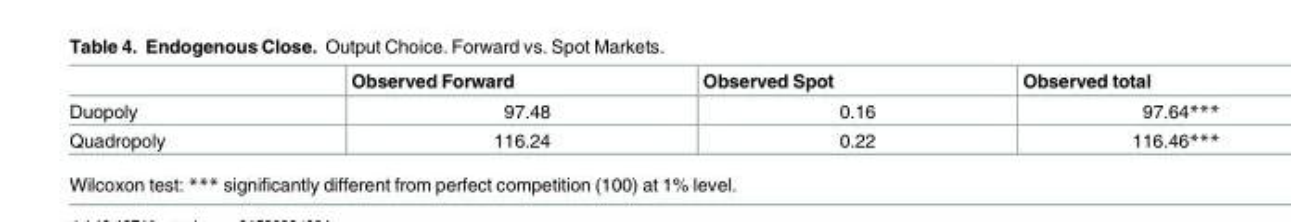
<table><thead><tr><td></td><td>Observed Forward</td><td>Observed Spot</td><td>Observed total</td></tr></thead><tbody><tr><td>Duopoly</td><td>97.48</td><td>0.16</td><td>97.64***</td></tr><tr><td>Quadropoly</td><td>116.24</td><td>0.22</td><td>116.46***</td></tr></tbody></table>